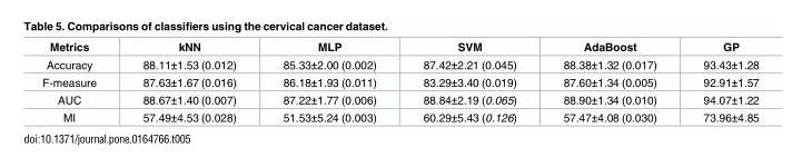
<table><thead><tr><td>Metrics</td><td>kNN</td><td>MLP</td><td>SVM</td><td>AdaBoost</td><td>GP</td></tr></thead><tbody><tr><td>Accuracy</td><td>88.11±1.53 (0.012)</td><td>85.33±2.00 (0.002)</td><td>87.42±2.21 (0.045)</td><td>88.38±1.32 (0.017)</td><td>93.43±1.28</td></tr><tr><td>F-measure</td><td>87.63±1.67 (0.016)</td><td>86.18±1.93 (0.011)</td><td>83.29±3.40 (0.019)</td><td>87.60±1.34 (0.005)</td><td>92.91±1.57</td></tr><tr><td>AUC</td><td>88.67±1.40 (0.007)</td><td>87.22±1.77 (0.006)</td><td>88.84±2.19 (0.065)</td><td>88.90±1.34 (0.010)</td><td>94.07±1.22</td></tr><tr><td>MI</td><td>57.49±4.53 (0.028)</td><td>51.53±5.24 (0.003)</td><td>60.29±5.43 (0.126)</td><td>57.47±4.08 (0.030)</td><td>73.96±4.85</td></tr></tbody></table>